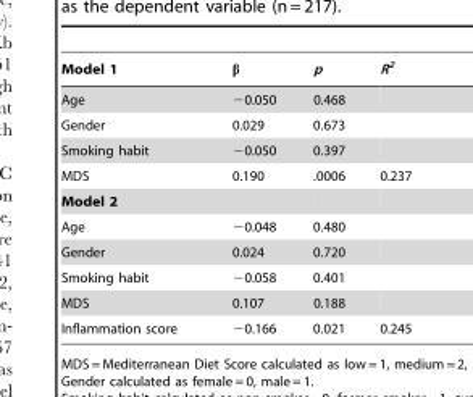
<table><thead><tr><td>Model 1</td><td>β</td><td>p</td><td>R<sup>2</sup></td></tr></thead><tbody><tr><td>Age</td><td>−0.050</td><td>0.468</td><td></td></tr><tr><td>Gender</td><td>0.029</td><td>0.673</td><td></td></tr><tr><td>Smoking habit</td><td>−0.050</td><td>0.397</td><td></td></tr><tr><td>MDS</td><td>0.190</td><td>.0006</td><td>0.237</td></tr><tr><td colspan="4">Model 2</td></tr><tr><td>Age</td><td>−0.048</td><td>0.480</td><td></td></tr><tr><td>Gender</td><td>0.024</td><td>0.720</td><td></td></tr><tr><td>Smoking habit</td><td>−0.058</td><td>0.401</td><td></td></tr><tr><td>MDS</td><td>0.107</td><td>0.188</td><td></td></tr><tr><td>Inflammation score</td><td>−0.166</td><td>0.021</td><td>0.245</td></tr></tbody></table>